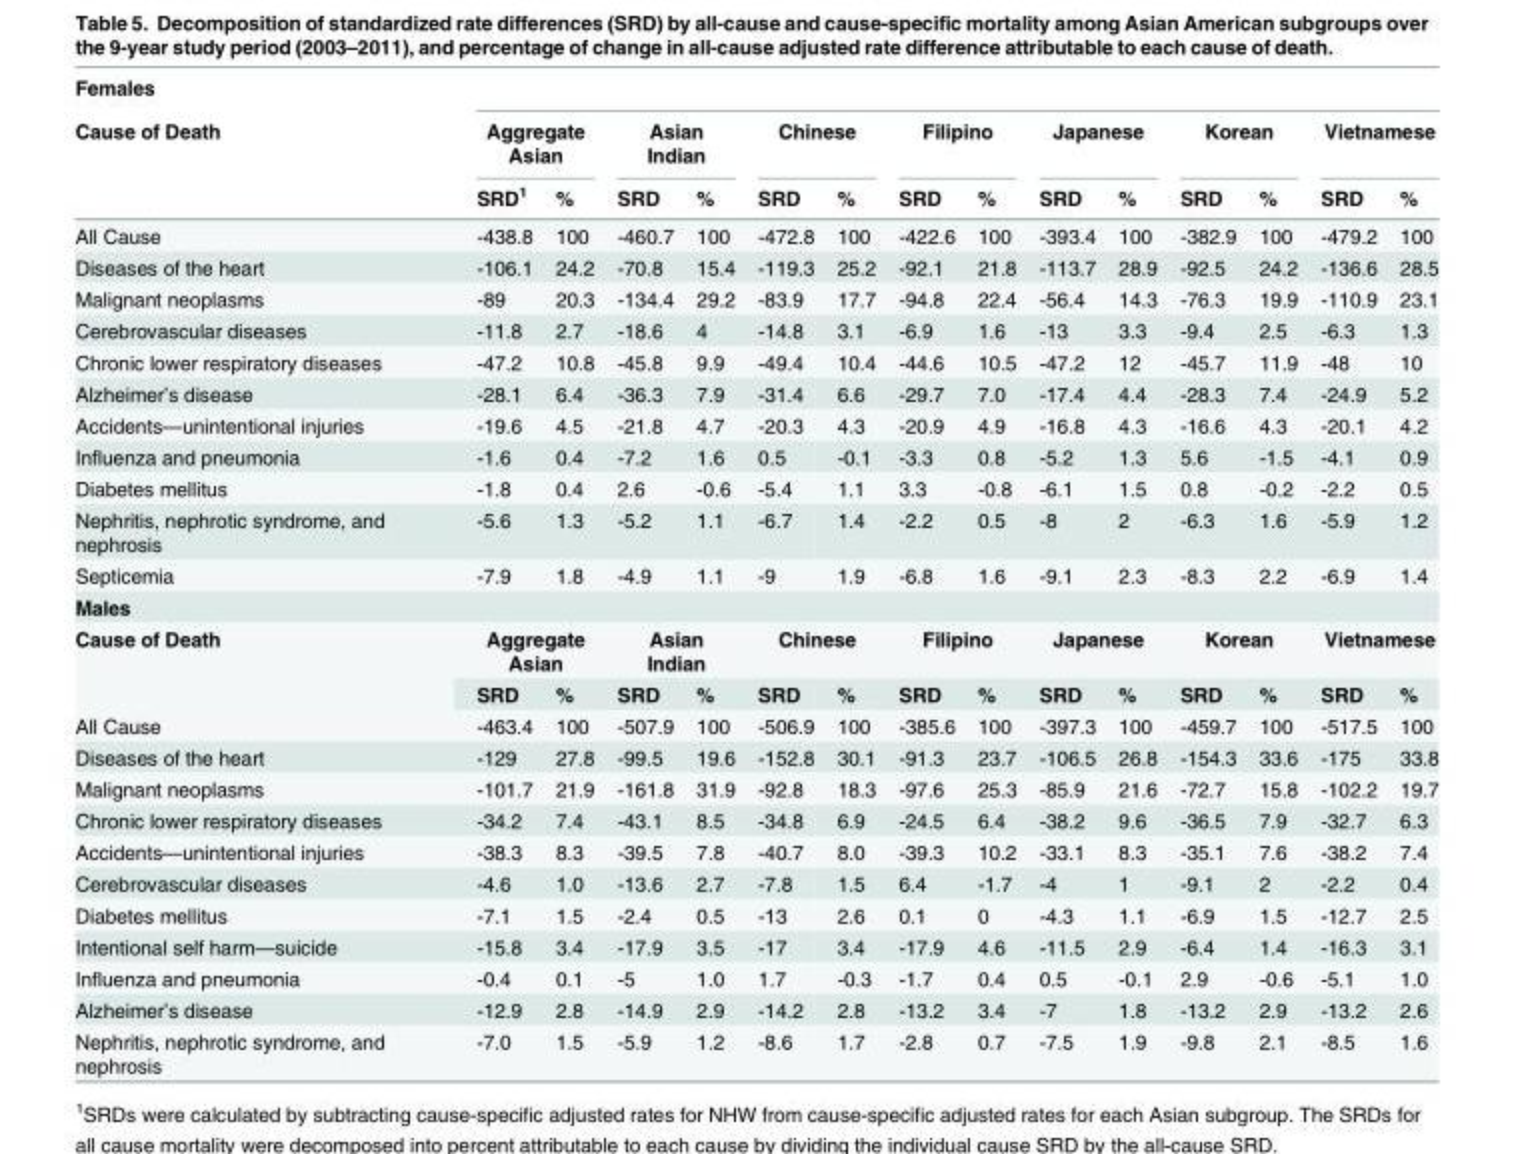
<table><thead><tr><td rowspan="3">Females Cause of Death</td><td></td><td></td><td></td><td></td><td></td><td></td><td></td><td></td><td></td><td></td><td></td><td></td><td></td><td></td></tr><tr><td colspan="2">Aggregate Asian</td><td colspan="2">Asian Indian</td><td colspan="2">Chinese</td><td colspan="2">Filipino</td><td colspan="2">Japanese</td><td colspan="2">Korean</td><td colspan="2">Vietnamese</td></tr><tr><td>SRD<sup>1</sup></td><td>%</td><td>SRD</td><td>%</td><td>SRD</td><td>%</td><td>SRD</td><td>%</td><td>SRD</td><td>%</td><td>SRD</td><td>%</td><td>SRD</td><td>%</td></tr></thead><tbody><tr><td>All Cause</td><td>-438.8</td><td>100</td><td>-460.7</td><td>100</td><td>-472.8</td><td>100</td><td>-422.6</td><td>100</td><td>-393.4</td><td>100</td><td>-382.9</td><td>100</td><td>-479.2</td><td>100</td></tr><tr><td>Diseases of the heart</td><td>-106.1</td><td>24.2</td><td>-70.8</td><td>15.4</td><td>-119.3</td><td>25.2</td><td>-92.1</td><td>21.8</td><td>-113.7</td><td>28.9</td><td>-92.5</td><td>24.2</td><td>-136.6</td><td>28.5</td></tr><tr><td>Malignant neoplasms</td><td>-89</td><td>20.3</td><td>-134.4</td><td>29.2</td><td>-83.9</td><td>17.7</td><td>-94.8</td><td>22.4</td><td>-56.4</td><td>14.3</td><td>-76.3</td><td>19.9</td><td>-110.9</td><td>23.1</td></tr><tr><td>Cerebrovascular diseases</td><td>-11.8</td><td>2.7</td><td>-18.6</td><td>4</td><td>-14.8</td><td>3.1</td><td>-6.9</td><td>1.6</td><td>-13</td><td>3.3</td><td>-9.4</td><td>2.5</td><td>-6.3</td><td>1.3</td></tr><tr><td>Chronic lower respiratory diseases</td><td>-47.2</td><td>10.8</td><td>-45.8</td><td>9.9</td><td>-49.4</td><td>10.4</td><td>-44.6</td><td>10.5</td><td>-47.2</td><td>12</td><td>-45.7</td><td>11.9</td><td>-48</td><td>10</td></tr><tr><td>Alzheimer’s disease</td><td>-28.1</td><td>6.4</td><td>-36.3</td><td>7.9</td><td>-31.4</td><td>6.6</td><td>-29.7</td><td>7.0</td><td>-17.4</td><td>4.4</td><td>-28.3</td><td>7.4</td><td>-24.9</td><td>5.2</td></tr><tr><td>Accidents—unintentional injuries</td><td>-19.6</td><td>4.5</td><td>-21.8</td><td>4.7</td><td>-20.3</td><td>4.3</td><td>-20.9</td><td>4.9</td><td>-16.8</td><td>4.3</td><td>-16.6</td><td>4.3</td><td>-20.1</td><td>4.2</td></tr><tr><td>Influenza and pneumonia</td><td>-1.6</td><td>0.4</td><td>-7.2</td><td>1.6</td><td>0.5</td><td>-0.1</td><td>-3.3</td><td>0.8</td><td>-5.2</td><td>1.3</td><td>5.6</td><td>-1.5</td><td>-4.1</td><td>0.9</td></tr><tr><td>Diabetes mellitus</td><td>-1.8</td><td>0.4</td><td>2.6</td><td>-0.6</td><td>-5.4</td><td>1.1</td><td>3.3</td><td>-0.8</td><td>-6.1</td><td>1.5</td><td>0.8</td><td>-0.2</td><td>-2.2</td><td>0.5</td></tr><tr><td>Nephritis, nephrotic syndrome, and nephrosis</td><td>-5.6</td><td>1.3</td><td>-5.2</td><td>1.1</td><td>-6.7</td><td>1.4</td><td>-2.2</td><td>0.5</td><td>-8</td><td>2</td><td>-6.3</td><td>1.6</td><td>-5.9</td><td>1.2</td></tr><tr><td>Septicemia</td><td>-7.9</td><td>1.8</td><td>-4.9</td><td>1.1</td><td>-9</td><td>1.9</td><td>-6.8</td><td>1.6</td><td>-9.1</td><td>2.3</td><td>-8.3</td><td>2.2</td><td>-6.9</td><td>1.4</td></tr><tr><td colspan="15">Males</td></tr><tr><td rowspan="2">Cause of Death</td><td colspan="2">Aggregate Asian</td><td colspan="2">Asian Indian</td><td colspan="2">Chinese</td><td colspan="2">Filipino</td><td colspan="2">Japanese</td><td colspan="2">Korean</td><td colspan="2">Vietnamese</td></tr><tr><td>SRD</td><td>%</td><td>SRD</td><td>%</td><td>SRD</td><td>%</td><td>SRD</td><td>%</td><td>SRD</td><td>%</td><td>SRD</td><td>%</td><td>SRD</td><td>%</td></tr><tr><td>All Cause</td><td>-463.4</td><td>100</td><td>-507.9</td><td>100</td><td>-506.9</td><td>100</td><td>-385.6</td><td>100</td><td>-397.3</td><td>100</td><td>-459.7</td><td>100</td><td>-517.5</td><td>100</td></tr><tr><td>Diseases of the heart</td><td>-129</td><td>27.8</td><td>-99.5</td><td>19.6</td><td>-152.8</td><td>30.1</td><td>-91.3</td><td>23.7</td><td>-106.5</td><td>26.8</td><td>-154.3</td><td>33.6</td><td>-175</td><td>33.8</td></tr><tr><td>Malignant neoplasms</td><td>-101.7</td><td>21.9</td><td>-161.8</td><td>31.9</td><td>-92.8</td><td>18.3</td><td>-97.6</td><td>25.3</td><td>-85.9</td><td>21.6</td><td>-72.7</td><td>15.8</td><td>-102.2</td><td>19.7</td></tr><tr><td>Chronic lower respiratory diseases</td><td>-34.2</td><td>7.4</td><td>-43.1</td><td>8.5</td><td>-34.8</td><td>6.9</td><td>-24.5</td><td>6.4</td><td>-38.2</td><td>9.6</td><td>-36.5</td><td>7.9</td><td>-32.7</td><td>6.3</td></tr><tr><td>Accidents—unintentional injuries</td><td>-38.3</td><td>8.3</td><td>-39.5</td><td>7.8</td><td>-40.7</td><td>8.0</td><td>-39.3</td><td>10.2</td><td>-33.1</td><td>8.3</td><td>-35.1</td><td>7.6</td><td>-38.2</td><td>7.4</td></tr><tr><td>Cerebrovascular diseases</td><td>-4.6</td><td>1.0</td><td>-13.6</td><td>2.7</td><td>-7.8</td><td>1.5</td><td>6.4</td><td>-1.7</td><td>-4</td><td>1</td><td>-9.1</td><td>2</td><td>-2.2</td><td>0.4</td></tr><tr><td>Diabetes mellitus</td><td>-7.1</td><td>1.5</td><td>-2.4</td><td>0.5</td><td>-13</td><td>2.6</td><td>0.1</td><td>0</td><td>-4.3</td><td>1.1</td><td>-6.9</td><td>1.5</td><td>-12.7</td><td>2.5</td></tr><tr><td>Intentional self harm—suicide</td><td>-15.8</td><td>3.4</td><td>-17.9</td><td>3.5</td><td>-17</td><td>3.4</td><td>-17.9</td><td>4.6</td><td>-11.5</td><td>2.9</td><td>-6.4</td><td>1.4</td><td>-16.3</td><td>3.1</td></tr><tr><td>Influenza and pneumonia</td><td>-0.4</td><td>0.1</td><td>-5</td><td>1.0</td><td>1.7</td><td>-0.3</td><td>-1.7</td><td>0.4</td><td>0.5</td><td>-0.1</td><td>2.9</td><td>-0.6</td><td>-5.1</td><td>1.0</td></tr><tr><td>Alzheimer’s disease</td><td>-12.9</td><td>2.8</td><td>-14.9</td><td>2.9</td><td>-14.2</td><td>2.8</td><td>-13.2</td><td>3.4</td><td>-7</td><td>1.8</td><td>-13.2</td><td>2.9</td><td>-13.2</td><td>2.6</td></tr><tr><td>Nephritis, nephrotic syndrome, and nephrosis</td><td>-7.0</td><td>1.5</td><td>-5.9</td><td>1.2</td><td>-8.6</td><td>1.7</td><td>-2.8</td><td>0.7</td><td>-7.5</td><td>1.9</td><td>-9.8</td><td>2.1</td><td>-8.5</td><td>1.6</td></tr></tbody></table>